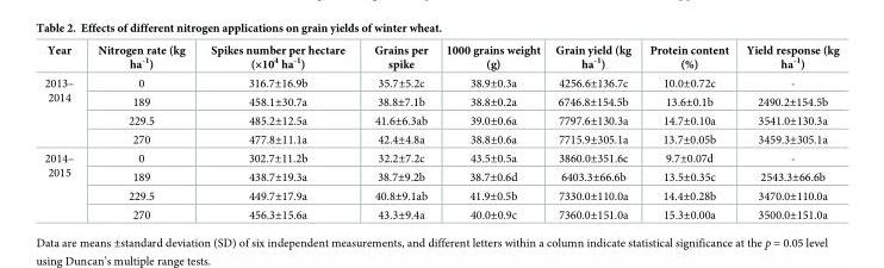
<table><thead><tr><td>Year</td><td>Nitrogen rate (kg ha<sup>-1</sup>)</td><td>Spikes number per hectare (×10<sup>4</sup> ha<sup>-1</sup>)</td><td>Grains per spike</td><td>1000 grains weight (g)</td><td>Grain yield (kg ha<sup>-1</sup>)</td><td>Protein content (%)</td><td>Yield response (kg ha<sup>-1</sup>)</td></tr></thead><tbody><tr><td rowspan="4">2013– 2014</td><td>0</td><td>316.7±16.9b</td><td>35.7±5.2c</td><td>38.9±0.3a</td><td>4256.6±136.7c</td><td>10.0±0.72c</td><td>-</td></tr><tr><td>189</td><td>458.1±30.7a</td><td>38.8±7.1b</td><td>38.8±0.2a</td><td>6746.8±154.5b</td><td>13.6±0.1b</td><td>2490.2±154.5b</td></tr><tr><td>229.5</td><td>485.2±12.5a</td><td>41.6±6.3ab</td><td>39.0±0.6a</td><td>7797.6±130.3a</td><td>14.7±0.10a</td><td>3541.0±130.3a</td></tr><tr><td>270</td><td>477.8±11.1a</td><td>42.4±4.8a</td><td>38.8±0.6a</td><td>7715.9±305.1a</td><td>13.7±0.05b</td><td>3459.3±305.1a</td></tr><tr><td rowspan="4">2014– 2015</td><td>0</td><td>302.7±11.2b</td><td>32.2±7.2c</td><td>43.5±0.5a</td><td>3860.0±351.6c</td><td>9.7±0.07d</td><td>-</td></tr><tr><td>189</td><td>438.7±19.3a</td><td>38.7±9.2b</td><td>38.7±0.6d</td><td>6403.3±66.6b</td><td>13.5±0.35c</td><td>2543.3±66.6b</td></tr><tr><td>229.5</td><td>449.7±17.9a</td><td>40.8±9.1ab</td><td>41.9±0.5b</td><td>7330.0±110.0a</td><td>14.4±0.28b</td><td>3470.0±110.0a</td></tr><tr><td>270</td><td>456.3±15.6a</td><td>43.3±9.4a</td><td>40.0±0.9c</td><td>7360.0±151.0a</td><td>15.3±0.00a</td><td>3500.0±151.0a</td></tr></tbody></table>